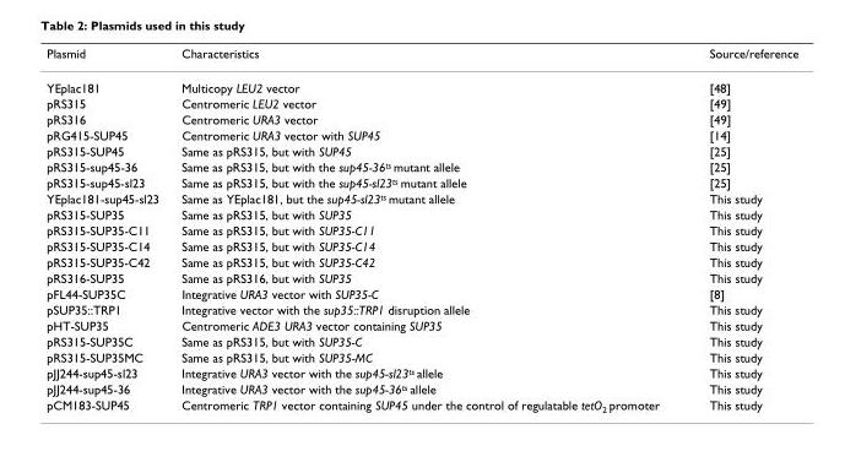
<table><thead><tr><td>Plasmid</td><td>Characteristics</td><td>Source/reference</td></tr></thead><tbody><tr><td>YEplac181</td><td>Multicopy LEU2 vector</td><td>[48]</td></tr><tr><td>pRS315</td><td>Centromeric LEU2 vector</td><td>[49]</td></tr><tr><td>pRS316</td><td>Centromeric URA3 vector</td><td>[49]</td></tr><tr><td>pRG415-SUP45</td><td>Centromeric URA3 vector with SUP45</td><td>[14]</td></tr><tr><td>pRS315-SUP45</td><td>Same as pRS315, but with SUP45</td><td>[25]</td></tr><tr><td>pRS315-sup45-36</td><td>Same as pRS315, but with the sup45-36ts mutant allele</td><td>[25]</td></tr><tr><td>pRS315-sup45-sl23</td><td>Same as pRS315, but with the sup45-sl23ts mutant allele</td><td>[25]</td></tr><tr><td>YEplac181-sup45-sl23</td><td>Same as YEplac181, but the sup45-sl23ts mutant allele</td><td>This study</td></tr><tr><td>pRS315-SUP35</td><td>Same as pRS315, but with SUP35</td><td>This study</td></tr><tr><td>pRS315-SUP35-C11</td><td>Same as pRS315, but with SUP35-C11</td><td>This study</td></tr><tr><td>pRS315-SUP35-C14</td><td>Same as pRS315, but with SUP35-C14</td><td>This study</td></tr><tr><td>pRS315-SUP35-C42</td><td>Same as pRS315, but with SUP35-C42</td><td>This study</td></tr><tr><td>pRS316-SUP35</td><td>Same as pRS316, but with SUP35</td><td>This study</td></tr><tr><td>pFL44-SUP35C</td><td>Integrative URA3 vector with SUP35-C</td><td>[8]</td></tr><tr><td>pSUP35::TRP1</td><td>Integrative vector with the sup35::TRP1 disruption allele</td><td>This study</td></tr><tr><td>pHT-SUP35</td><td>Centromeric ADE3 URA3 vector containing SUP35</td><td>This study</td></tr><tr><td>pRS315-SUP35C</td><td>Same as pRS315, but with SUP35-C</td><td>This study</td></tr><tr><td>pRS315-SUP35MC</td><td>Same as pRS315, but with SUP35-MC</td><td>This study</td></tr><tr><td>pJJ244-sup45-sl23</td><td>Integrative URA3 vector with the sup45-sl23ts allele</td><td>This study</td></tr><tr><td>pJJ244-sup45-36</td><td>Integrative URA3 vector with the sup45-36ts allele</td><td>This study</td></tr><tr><td>pCM183-SUP45</td><td>Centromeric TRP1 vector containing SUP45 under the control of regulatable tetO2 promoter</td><td>This study</td></tr></tbody></table>